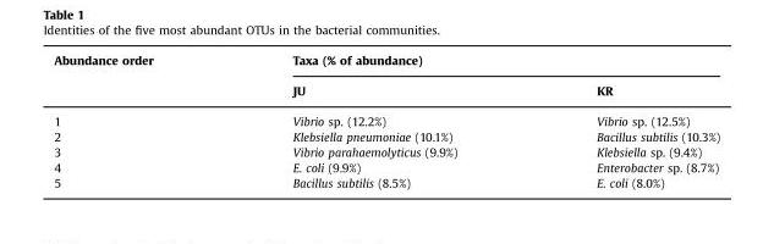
<table><thead><tr><td rowspan="2">Abundance order</td><td colspan="2">Taxa (% of abundance)</td></tr><tr><td>JU</td><td>KR</td></tr></thead><tbody><tr><td>1</td><td>Vibrio sp. (12.2%)</td><td>Vibrio sp. (12.5%)</td></tr><tr><td>2</td><td>Klebsiella pneumoniae (10.1%)</td><td>Bacillus subtilis (10.3%)</td></tr><tr><td>3</td><td>Vibrio parahaemolyticus (9.9%)</td><td>Klebsiella sp. (9.4%)</td></tr><tr><td>4</td><td>E. coli (9.9%)</td><td>Enterobacter sp. (8.7%)</td></tr><tr><td>5</td><td>Bacillus subtilis (8.5%)</td><td>E. coli (8.0%)</td></tr></tbody></table>